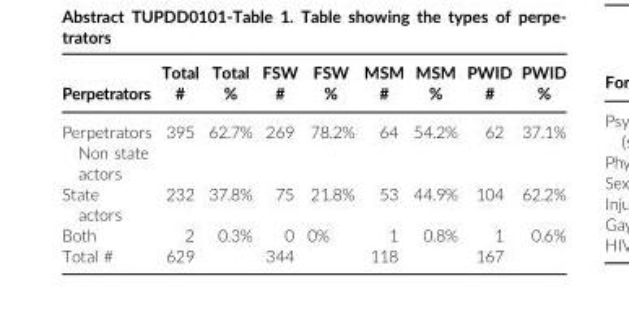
<table><thead><tr><td>Perpetrators</td><td>Total #</td><td>Total %</td><td>FSW #</td><td>FSW %</td><td>MSM #</td><td>MSM %</td><td>PWID #</td><td>PWID %</td></tr></thead><tbody><tr><td>Perpetrators Non state actors</td><td>395</td><td>62.7%</td><td>269</td><td>78.2%</td><td>64</td><td>54.2%</td><td>62</td><td>37.1%</td></tr><tr><td>State actors</td><td>232</td><td>37.8%</td><td>75</td><td>21.8%</td><td>53</td><td>44.9%</td><td>104</td><td>62.2%</td></tr><tr><td>Both</td><td>2</td><td>0.3%</td><td>0</td><td>0%</td><td>1</td><td>0.8%</td><td>1</td><td>0.6%</td></tr><tr><td>Total #</td><td>629</td><td></td><td>344</td><td></td><td>118</td><td></td><td>167</td><td></td></tr></tbody></table>